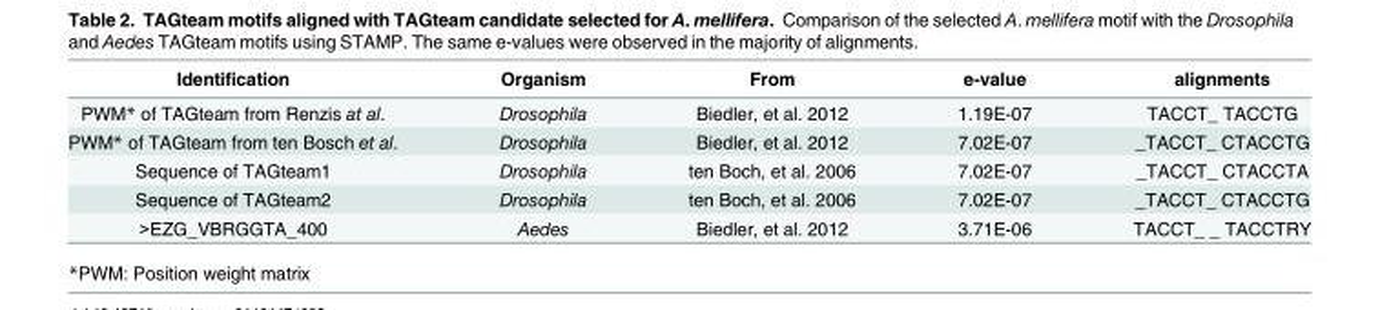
<table><thead><tr><td>Identification</td><td>Organism</td><td>From</td><td>e-value</td><td>alignments</td></tr></thead><tbody><tr><td>PWM* of TAGteam from Renzis at al.</td><td>Drosophila</td><td>Biedler, et al. 2012</td><td>1.19E-07</td><td>TACCT_ TACCTG</td></tr><tr><td>PWM* of TAGteam from ten Bosch et al.</td><td>Drosophila</td><td>Biedler, et al. 2012</td><td>7.02E-07</td><td>_TACCT_ CTACCTG</td></tr><tr><td>Sequence of TAGteam1</td><td>Drosophila</td><td>ten Boch, et al. 2006</td><td>7.02E-07</td><td>_TACCT_ CTACCTA</td></tr><tr><td>Sequence of TAGteam2</td><td>Drosophila</td><td>ten Boch, et al. 2006</td><td>7.02E-07</td><td>_TACCT_ CTACCTG</td></tr><tr><td>&gt;EZG_VBRGGTA_400</td><td>Aedes</td><td>Biedler, et al. 2012</td><td>3.71E-06</td><td>TACCT_ _ TACCTRY</td></tr></tbody></table>